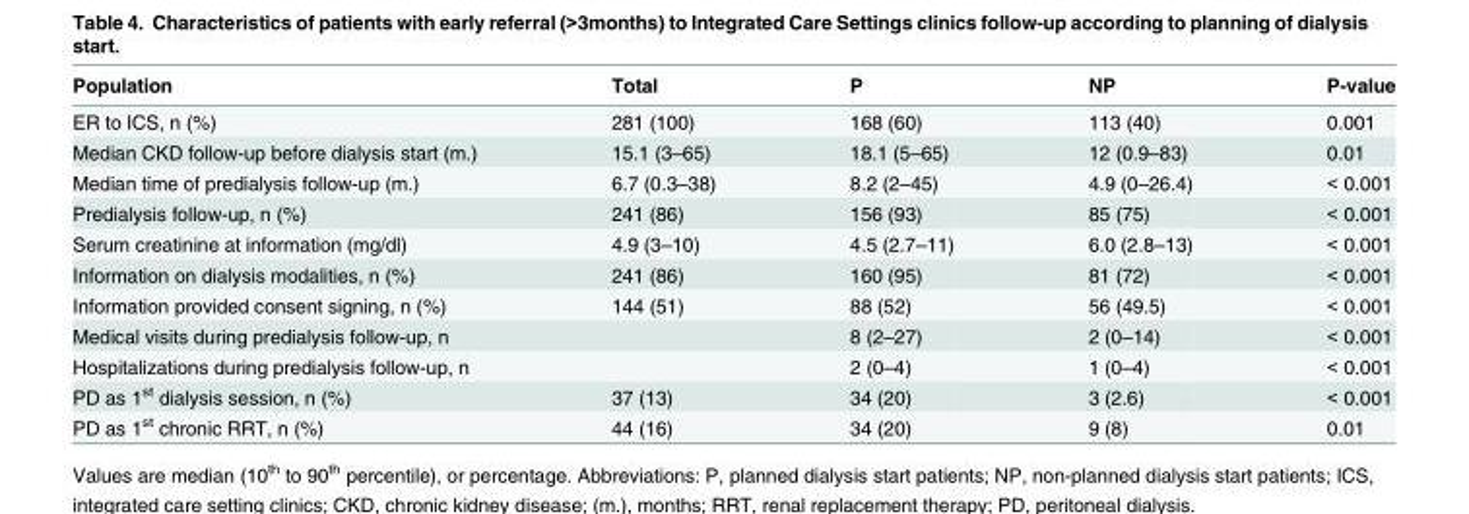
<table><thead><tr><td>Population</td><td>Total</td><td>P</td><td>NP</td><td>P-value</td></tr></thead><tbody><tr><td>ER to ICS, n (%)</td><td>281 (100)</td><td>168 (60)</td><td>113 (40)</td><td>0.001</td></tr><tr><td>Median CKD follow-up before dialysis start (m.)</td><td>15.1 (3–65)</td><td>18.1 (5–65)</td><td>12 (0.9–83)</td><td>0.01</td></tr><tr><td>Median time of predialysis follow-up (m.)</td><td>6.7 (0.3–38)</td><td>8.2 (2–45)</td><td>4.9 (0–26.4)</td><td>&lt; 0.001</td></tr><tr><td>Predialysis follow-up, n (%)</td><td>241 (86)</td><td>156 (93)</td><td>85 (75)</td><td>&lt; 0.001</td></tr><tr><td>Serum creatinine at information (mg/dl)</td><td>4.9 (3–10)</td><td>4.5 (2.7–11)</td><td>6.0 (2.8–13)</td><td>&lt; 0.001</td></tr><tr><td>Information on dialysis modalities, n (%)</td><td>241 (86)</td><td>160 (95)</td><td>81 (72)</td><td>&lt; 0.001</td></tr><tr><td>Information provided consent signing, n (%)</td><td>144 (51)</td><td>88 (52)</td><td>56 (49.5)</td><td>&lt; 0.001</td></tr><tr><td>Medical visits during predialysis follow-up, n</td><td></td><td>8 (2–27)</td><td>2 (0–14)</td><td>&lt; 0.001</td></tr><tr><td>Hospitalizations during predialysis follow-up, n</td><td></td><td>2 (0–4)</td><td>1 (0–4)</td><td>&lt; 0.001</td></tr><tr><td>PD as 1<sup>st</sup> dialysis session, n (%)</td><td>37 (13)</td><td>34 (20)</td><td>3 (2.6)</td><td>&lt; 0.001</td></tr><tr><td>PD as 1<sup>st</sup> chronic RRT, n (%)</td><td>44 (16)</td><td>34 (20)</td><td>9 (8)</td><td>0.01</td></tr></tbody></table>